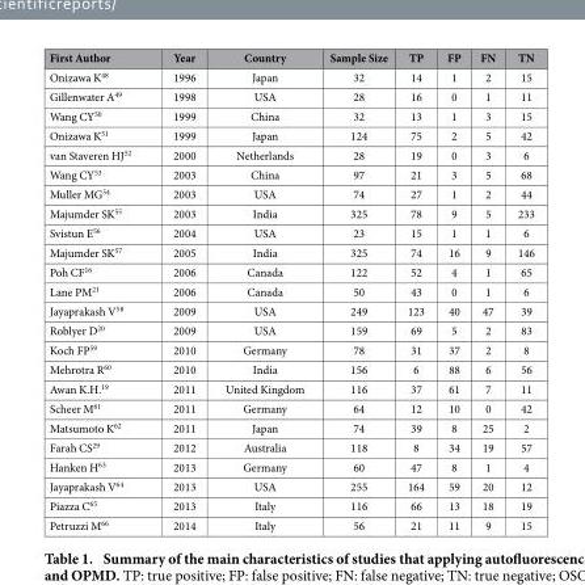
<table><thead><tr><td>First Author</td><td>Year</td><td>Country</td><td>Sample Size</td><td>TP</td><td>FP</td><td>FN</td><td>TN</td></tr></thead><tbody><tr><td>Onizawa K<sup>48</sup></td><td>1996</td><td>Japan</td><td>32</td><td>14</td><td>1</td><td>2</td><td>15</td></tr><tr><td>Gillenwater A<sup>49</sup></td><td>1998</td><td>USA</td><td>28</td><td>16</td><td>0</td><td>1</td><td>11</td></tr><tr><td>Wang CY<sup>50</sup></td><td>1999</td><td>China</td><td>32</td><td>13</td><td>1</td><td>3</td><td>15</td></tr><tr><td>Onizawa K<sup>51</sup></td><td>1999</td><td>Japan</td><td>124</td><td>75</td><td>2</td><td>5</td><td>42</td></tr><tr><td>van Staveren HJ<sup>52</sup></td><td>2000</td><td>Netherlands</td><td>28</td><td>19</td><td>0</td><td>3</td><td>6</td></tr><tr><td>Wang CY<sup>53</sup></td><td>2003</td><td>China</td><td>97</td><td>21</td><td>3</td><td>5</td><td>68</td></tr><tr><td>Muller MG<sup>54</sup></td><td>2003</td><td>USA</td><td>74</td><td>27</td><td>1</td><td>2</td><td>44</td></tr><tr><td>Majumder SK<sup>55</sup></td><td>2003</td><td>India</td><td>325</td><td>78</td><td>9</td><td>5</td><td>233</td></tr><tr><td>Svistun E<sup>56</sup></td><td>2004</td><td>USA</td><td>23</td><td>15</td><td>1</td><td>1</td><td>6</td></tr><tr><td>Majumder SK<sup>57</sup></td><td>2005</td><td>India</td><td>325</td><td>74</td><td>16</td><td>9</td><td>146</td></tr><tr><td>Poh CF<sup>16</sup></td><td>2006</td><td>Canada</td><td>122</td><td>52</td><td>4</td><td>1</td><td>65</td></tr><tr><td>Lane PM<sup>21</sup></td><td>2006</td><td>Canada</td><td>50</td><td>43</td><td>0</td><td>1</td><td>6</td></tr><tr><td>Jayaprakash V<sup>58</sup></td><td>2009</td><td>USA</td><td>249</td><td>123</td><td>40</td><td>47</td><td>39</td></tr><tr><td>Roblyer D<sup>20</sup></td><td>2009</td><td>USA</td><td>159</td><td>69</td><td>5</td><td>2</td><td>83</td></tr><tr><td>Koch FP<sup>59</sup></td><td>2010</td><td>Germany</td><td>78</td><td>31</td><td>37</td><td>2</td><td>8</td></tr><tr><td>Mehrotra R<sup>60</sup></td><td>2010</td><td>India</td><td>156</td><td>6</td><td>88</td><td>6</td><td>56</td></tr><tr><td>Awan K.H.<sup>19</sup></td><td>2011</td><td>United Kingdom</td><td>116</td><td>37</td><td>61</td><td>7</td><td>11</td></tr><tr><td>Scheer M<sup>61</sup></td><td>2011</td><td>Germany</td><td>64</td><td>12</td><td>10</td><td>0</td><td>42</td></tr><tr><td>Matsumoto K<sup>62</sup></td><td>2011</td><td>Japan</td><td>74</td><td>39</td><td>8</td><td>25</td><td>2</td></tr><tr><td>Farah CS<sup>29</sup></td><td>2012</td><td>Australia</td><td>118</td><td>8</td><td>34</td><td>19</td><td>57</td></tr><tr><td>Hanken H<sup>63</sup></td><td>2013</td><td>Germany</td><td>60</td><td>47</td><td>8</td><td>1</td><td>4</td></tr><tr><td>Jayaprakash V<sup>64</sup></td><td>2013</td><td>USA</td><td>255</td><td>164</td><td>59</td><td>20</td><td>12</td></tr><tr><td>Piazza C<sup>65</sup></td><td>2013</td><td>Italy</td><td>116</td><td>66</td><td>13</td><td>18</td><td>19</td></tr><tr><td>Petruzzi M<sup>66</sup></td><td>2014</td><td>Italy</td><td>56</td><td>21</td><td>11</td><td>9</td><td>15</td></tr></tbody></table>